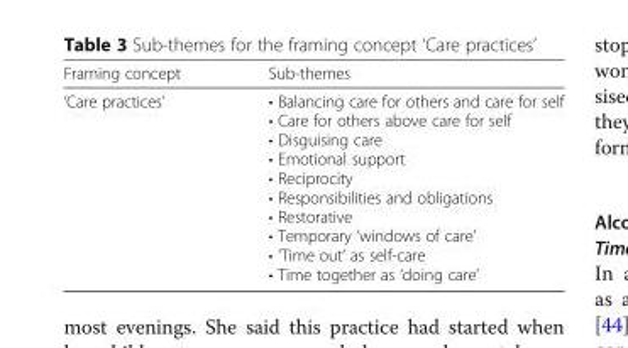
<table><thead><tr><td>Framing concept</td><td>Sub-themes</td></tr></thead><tbody><tr><td>‘Care practices’</td><td>• Balancing care for others and care for self • Care for others above care for self • Disguising care • Emotional support • Reciprocity • Responsibilities and obligations • Restorative • Temporary ‘windows of care’ • ‘Time out’ as self-care • Time together as ‘doing care’</td></tr></tbody></table>